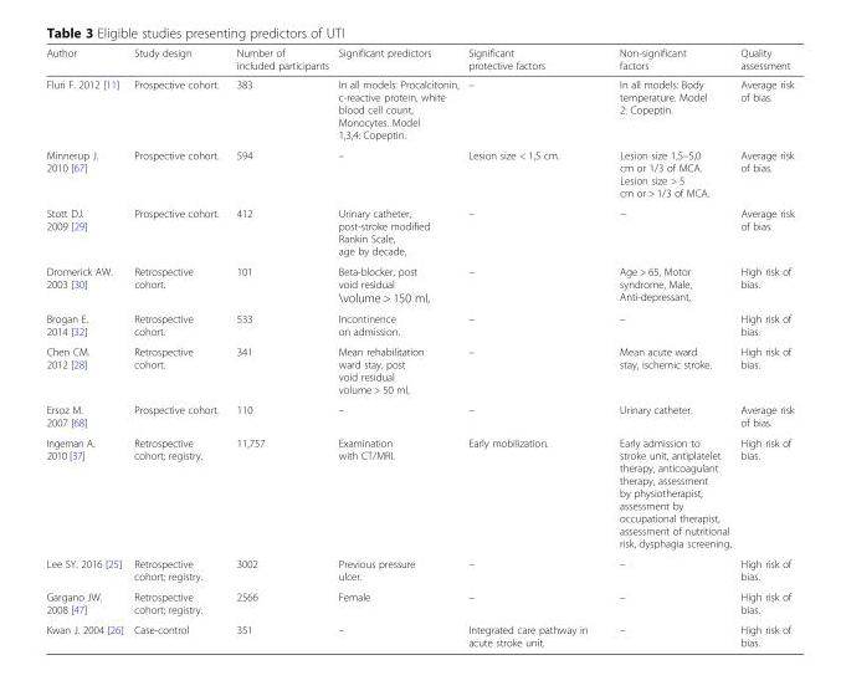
<table><thead><tr><td>Author</td><td>Study design</td><td>Number of included participants</td><td>Significant predictors</td><td>Significant protective factors</td><td>Non-significant factors</td><td>Quality assessment</td></tr></thead><tbody><tr><td>Fluri F. 2012 [11]</td><td>Prospective cohort.</td><td>383</td><td>In all models: Procalcitonin, c-reactive protein, white blood cell count, Monocytes. Model 1,3,4: Copeptin.</td><td>–</td><td>In all models: Body temperature. Model 2: Copeptin.</td><td>Average risk of bias.</td></tr><tr><td>Minnerup J. 2010 [67]</td><td>Prospective cohort.</td><td>594</td><td>–</td><td>Lesion size &lt; 1,5 cm.</td><td>Lesion size 1,5–5,0 cm or 1/3 of MCA. Lesion size &gt; 5 cm or &gt; 1/3 of MCA.</td><td>Average risk of bias.</td></tr><tr><td>Stott DJ. 2009 [29]</td><td>Prospective cohort.</td><td>412</td><td>Urinary catheter, post-stroke modified Rankin Scale, age by decade,</td><td>–</td><td>–</td><td>Average risk of bias.</td></tr><tr><td>Dromerick AW. 2003 [30]</td><td>Retrospective cohort.</td><td>101</td><td>Beta-blocker, post void residual \volume &gt; 150 ml,</td><td>–</td><td>Age &gt; 65, Motor syndrome, Male, Anti-depressant,</td><td>High risk of bias.</td></tr><tr><td>Brogan E. 2014 [32]</td><td>Retrospective cohort.</td><td>533</td><td>Incontinence on admission.</td><td>–</td><td>–</td><td>High risk of bias.</td></tr><tr><td>Chen CM. 2012 [28]</td><td>Retrospective cohort.</td><td>341</td><td>Mean rehabilitation ward stay, post void residual volume &gt; 50 ml,</td><td>–</td><td>Mean acute ward stay, ischemic stroke.</td><td>High risk of bias.</td></tr><tr><td>Ersoz M. 2007 [68]</td><td>Prospective cohort.</td><td>110</td><td>–</td><td>–</td><td>Urinary catheter.</td><td>Average risk of bias.</td></tr><tr><td>Ingeman A. 2010 [37]</td><td>Retrospective cohort; registry.</td><td>11,757</td><td>Examination with CT/MRI.</td><td>Early mobilization.</td><td>Early admission to stroke unit, antiplatelet therapy, anticoagulant therapy, assessment by physiotherapist, assessment by occupational therapist, assessment of nutritional risk, dysphagia screening,</td><td>High risk of bias.</td></tr><tr><td>Lee SY. 2016 [25]</td><td>Retrospective cohort; registry.</td><td>3002</td><td>Previous pressure ulcer.</td><td>–</td><td>–</td><td>High risk of bias.</td></tr><tr><td>Gargano JW. 2008 [47]</td><td>Retrospective cohort; registry.</td><td>2566</td><td>Female</td><td>–</td><td>–</td><td>High risk of bias.</td></tr><tr><td>Kwan J. 2004 [26]</td><td>Case-control</td><td>351</td><td>–</td><td>Integrated care pathway in acute stroke unit.</td><td>–</td><td>High risk of bias.</td></tr></tbody></table>